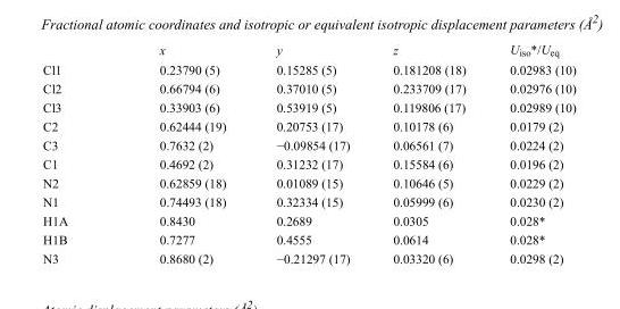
<table><thead><tr><td></td><td>x</td><td>y</td><td>z</td><td>U<sub>iso</sub>*/U<sub>eq</sub></td></tr></thead><tbody><tr><td>Cl1</td><td>0.23790 (5)</td><td>0.15285 (5)</td><td>0.181208 (18)</td><td>0.02983 (10)</td></tr><tr><td>Cl2</td><td>0.66794 (6)</td><td>0.37010 (5)</td><td>0.233709 (17)</td><td>0.02976 (10)</td></tr><tr><td>Cl3</td><td>0.33903 (6)</td><td>0.53919 (5)</td><td>0.119806 (17)</td><td>0.02989 (10)</td></tr><tr><td>C2</td><td>0.62444 (19)</td><td>0.20753 (17)</td><td>0.10178 (6)</td><td>0.0179 (2)</td></tr><tr><td>C3</td><td>0.7632 (2)</td><td>−0.09854 (17)</td><td>0.06561 (7)</td><td>0.0224 (2)</td></tr><tr><td>C1</td><td>0.4692 (2)</td><td>0.31232 (17)</td><td>0.15584 (6)</td><td>0.0196 (2)</td></tr><tr><td>N2</td><td>0.62859 (18)</td><td>0.01089 (15)</td><td>0.10646 (5)</td><td>0.0229 (2)</td></tr><tr><td>N1</td><td>0.74493 (18)</td><td>0.32334 (15)</td><td>0.05999 (6)</td><td>0.0230 (2)</td></tr><tr><td>H1A</td><td>0.8430</td><td>0.2689</td><td>0.0305</td><td>0.028*</td></tr><tr><td>H1B</td><td>0.7277</td><td>0.4555</td><td>0.0614</td><td>0.028*</td></tr><tr><td>N3</td><td>0.8680 (2)</td><td>−0.21297 (17)</td><td>0.03320 (6)</td><td>0.0298 (2)</td></tr></tbody></table>